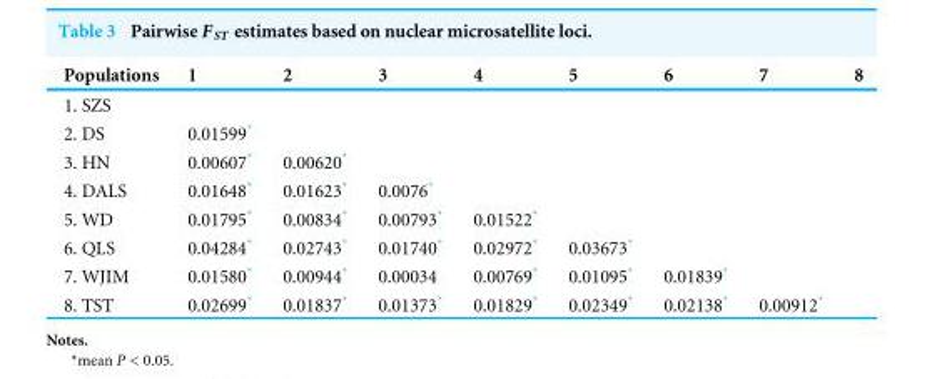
<table><thead><tr><td>Populations</td><td>1</td><td>2</td><td>3</td><td>4</td><td>5</td><td>6</td><td>7</td><td>8</td></tr></thead><tbody><tr><td colspan="9">1. SZS</td></tr><tr><td>2. DS</td><td>0.01599*</td><td></td><td></td><td></td><td></td><td></td><td></td><td></td></tr><tr><td>3. HN</td><td>0.00607*</td><td>0.00620*</td><td></td><td></td><td></td><td></td><td></td><td></td></tr><tr><td>4. DALS</td><td>0.01648*</td><td>0.01623*</td><td>0.0076*</td><td></td><td></td><td></td><td></td><td></td></tr><tr><td>5. WD</td><td>0.01795*</td><td>0.00834*</td><td>0.00793*</td><td>0.01522*</td><td></td><td></td><td></td><td></td></tr><tr><td>6. QLS</td><td>0.04284*</td><td>0.02743*</td><td>0.01740*</td><td>0.02972*</td><td>0.03673*</td><td></td><td></td><td></td></tr><tr><td>7. WJIM</td><td>0.01580*</td><td>0.00944*</td><td>0.00034</td><td>0.00769*</td><td>0.01095*</td><td>0.01839*</td><td></td><td></td></tr><tr><td>8. TST</td><td>0.02699*</td><td>0.01837*</td><td>0.01373*</td><td>0.01829*</td><td>0.02349*</td><td>0.02138*</td><td>0.00912*</td><td></td></tr></tbody></table>